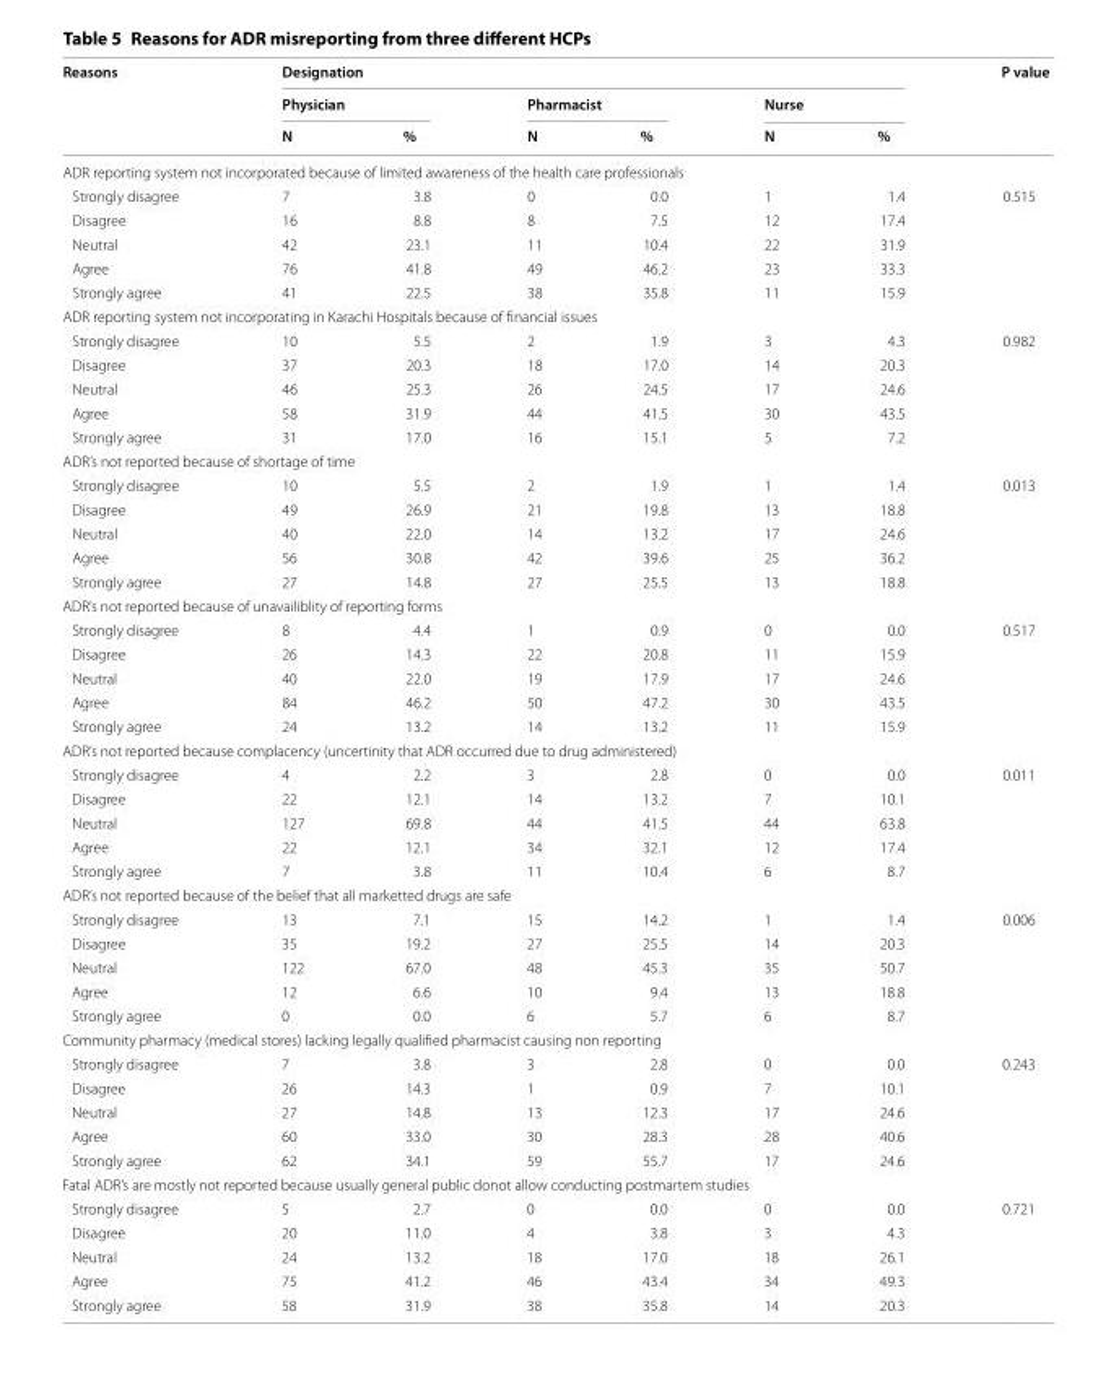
<table><thead><tr><td rowspan="3">Reasons</td><td colspan="6">Designation</td><td rowspan="3">P value</td></tr><tr><td colspan="2">Physician</td><td colspan="2">Pharmacist</td><td colspan="2">Nurse</td></tr><tr><td>N</td><td>%</td><td>N</td><td>%</td><td>N</td><td>%</td></tr></thead><tbody><tr><td colspan="8">ADR reporting system not incorporated because of limited awareness of the health care professionals</td></tr><tr><td>Strongly disagree</td><td>7</td><td>3.8</td><td>0</td><td>0.0</td><td>1</td><td>1.4</td><td>0.515</td></tr><tr><td>Disagree</td><td>16</td><td>8.8</td><td>8</td><td>7.5</td><td>12</td><td>17.4</td><td></td></tr><tr><td>Neutral</td><td>42</td><td>23.1</td><td>11</td><td>10.4</td><td>22</td><td>31.9</td><td></td></tr><tr><td>Agree</td><td>76</td><td>41.8</td><td>49</td><td>46.2</td><td>23</td><td>33.3</td><td></td></tr><tr><td>Strongly agree</td><td>41</td><td>22.5</td><td>38</td><td>35.8</td><td>11</td><td>15.9</td><td></td></tr><tr><td colspan="8">ADR reporting system not incorporating in Karachi Hospitals because of financial issues</td></tr><tr><td>Strongly disagree</td><td>10</td><td>5.5</td><td>2</td><td>1.9</td><td>3</td><td>4.3</td><td>0.982</td></tr><tr><td>Disagree</td><td>37</td><td>20.3</td><td>18</td><td>17.0</td><td>14</td><td>20.3</td><td></td></tr><tr><td>Neutral</td><td>46</td><td>25.3</td><td>26</td><td>24.5</td><td>17</td><td>24.6</td><td></td></tr><tr><td>Agree</td><td>58</td><td>31.9</td><td>44</td><td>41.5</td><td>30</td><td>43.5</td><td></td></tr><tr><td>Strongly agree</td><td>31</td><td>17.0</td><td>16</td><td>15.1</td><td>5</td><td>7.2</td><td></td></tr><tr><td colspan="8">ADR’s not reported because of shortage of time</td></tr><tr><td>Strongly disagree</td><td>10</td><td>5.5</td><td>2</td><td>1.9</td><td>1</td><td>1.4</td><td>0.013</td></tr><tr><td>Disagree</td><td>49</td><td>26.9</td><td>21</td><td>19.8</td><td>13</td><td>18.8</td><td></td></tr><tr><td>Neutral</td><td>40</td><td>22.0</td><td>14</td><td>13.2</td><td>17</td><td>24.6</td><td></td></tr><tr><td>Agree</td><td>56</td><td>30.8</td><td>42</td><td>39.6</td><td>25</td><td>36.2</td><td></td></tr><tr><td>Strongly agree</td><td>27</td><td>14.8</td><td>27</td><td>25.5</td><td>13</td><td>18.8</td><td></td></tr><tr><td colspan="8">ADR’s not reported because of unavailiblity of reporting forms</td></tr><tr><td>Strongly disagree</td><td>8</td><td>4.4</td><td>1</td><td>0.9</td><td>0</td><td>0.0</td><td>0.517</td></tr><tr><td>Disagree</td><td>26</td><td>14.3</td><td>22</td><td>20.8</td><td>11</td><td>15.9</td><td></td></tr><tr><td>Neutral</td><td>40</td><td>22.0</td><td>19</td><td>17.9</td><td>17</td><td>24.6</td><td></td></tr><tr><td>Agree</td><td>84</td><td>46.2</td><td>50</td><td>47.2</td><td>30</td><td>43.5</td><td></td></tr><tr><td>Strongly agree</td><td>24</td><td>13.2</td><td>14</td><td>13.2</td><td>11</td><td>15.9</td><td></td></tr><tr><td colspan="8">ADR’s not reported because complacency (uncertinity that ADR occurred due to drug administered)</td></tr><tr><td>Strongly disagree</td><td>4</td><td>2.2</td><td>3</td><td>2.8</td><td>0</td><td>0.0</td><td>0.011</td></tr><tr><td>Disagree</td><td>22</td><td>12.1</td><td>14</td><td>13.2</td><td>7</td><td>10.1</td><td></td></tr><tr><td>Neutral</td><td>127</td><td>69.8</td><td>44</td><td>41.5</td><td>44</td><td>63.8</td><td></td></tr><tr><td>Agree</td><td>22</td><td>12.1</td><td>34</td><td>32.1</td><td>12</td><td>17.4</td><td></td></tr><tr><td>Strongly agree</td><td>7</td><td>3.8</td><td>11</td><td>10.4</td><td>6</td><td>8.7</td><td></td></tr><tr><td colspan="8">ADR’s not reported because of the belief that all marketted drugs are safe</td></tr><tr><td>Strongly disagree</td><td>13</td><td>7.1</td><td>15</td><td>14.2</td><td>1</td><td>1.4</td><td>0.006</td></tr><tr><td>Disagree</td><td>35</td><td>19.2</td><td>27</td><td>25.5</td><td>14</td><td>20.3</td><td></td></tr><tr><td>Neutral</td><td>122</td><td>67.0</td><td>48</td><td>45.3</td><td>35</td><td>50.7</td><td></td></tr><tr><td>Agree</td><td>12</td><td>6.6</td><td>10</td><td>9.4</td><td>13</td><td>18.8</td><td></td></tr><tr><td>Strongly agree</td><td>0</td><td>0.0</td><td>6</td><td>5.7</td><td>6</td><td>8.7</td><td></td></tr><tr><td colspan="8">Community pharmacy (medical stores) lacking legally qualified pharmacist causing non reporting</td></tr><tr><td>Strongly disagree</td><td>7</td><td>3.8</td><td>3</td><td>2.8</td><td>0</td><td>0.0</td><td>0.243</td></tr><tr><td>Disagree</td><td>26</td><td>14.3</td><td>1</td><td>0.9</td><td>7</td><td>10.1</td><td></td></tr><tr><td>Neutral</td><td>27</td><td>14.8</td><td>13</td><td>12.3</td><td>17</td><td>24.6</td><td></td></tr><tr><td>Agree</td><td>60</td><td>33.0</td><td>30</td><td>28.3</td><td>28</td><td>40.6</td><td></td></tr><tr><td>Strongly agree</td><td>62</td><td>34.1</td><td>59</td><td>55.7</td><td>17</td><td>24.6</td><td></td></tr><tr><td colspan="8">Fatal ADR’s are mostly not reported because usually general public donot allow conducting postmartem studies</td></tr><tr><td>Strongly disagree</td><td>5</td><td>2.7</td><td>0</td><td>0.0</td><td>0</td><td>0.0</td><td>0.721</td></tr><tr><td>Disagree</td><td>20</td><td>11.0</td><td>4</td><td>3.8</td><td>3</td><td>4.3</td><td></td></tr><tr><td>Neutral</td><td>24</td><td>13.2</td><td>18</td><td>17.0</td><td>18</td><td>26.1</td><td></td></tr><tr><td>Agree</td><td>75</td><td>41.2</td><td>46</td><td>43.4</td><td>34</td><td>49.3</td><td></td></tr><tr><td>Strongly agree</td><td>58</td><td>31.9</td><td>38</td><td>35.8</td><td>14</td><td>20.3</td><td></td></tr></tbody></table>